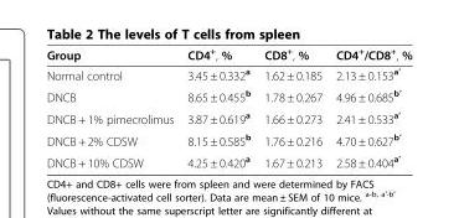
<table><thead><tr><td>Group</td><td>CD4<sup>+</sup>, %</td><td>CD8<sup>+</sup>, %</td><td>CD4<sup>+</sup>/CD8<sup>+</sup>, %</td></tr></thead><tbody><tr><td>Normal control</td><td>3.45 ± 0.332<sup>a</sup></td><td>1.62 ± 0.185</td><td>2.13 ± 0.153<sup>a′</sup></td></tr><tr><td>DNCB</td><td>8.65 ± 0.455<sup>b</sup></td><td>1.78 ± 0.267</td><td>4.96 ± 0.685<sup>b′</sup></td></tr><tr><td>DNCB + 1% pimecrolimus</td><td>3.87 ± 0.619<sup>a</sup></td><td>1.66 ± 0.273</td><td>2.41 ± 0.533<sup>a′</sup></td></tr><tr><td>DNCB + 2% CDSW</td><td>8.15 ± 0.585<sup>b</sup></td><td>1.76 ± 0.216</td><td>4.70 ± 0.627<sup>b′</sup></td></tr><tr><td>DNCB + 10% CDSW</td><td>4.25 ± 0.420<sup>a</sup></td><td>1.67 ± 0.213</td><td>2.58 ± 0.404<sup>a′</sup></td></tr></tbody></table>